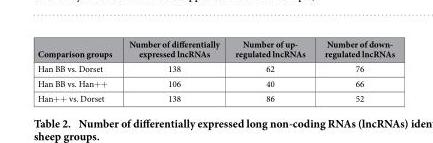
<table><thead><tr><td>Comparison groups</td><td>Number of differentially expressed lncRNAs</td><td>Number of up- regulated lncRNAs</td><td>Number of down- regulated lncRNAs</td></tr></thead><tbody><tr><td>Han BB vs. Dorset</td><td>138</td><td>62</td><td>76</td></tr><tr><td>Han BB vs. Han+ +</td><td>106</td><td>40</td><td>66</td></tr><tr><td>Han+ + vs. Dorset</td><td>138</td><td>86</td><td>52</td></tr></tbody></table>